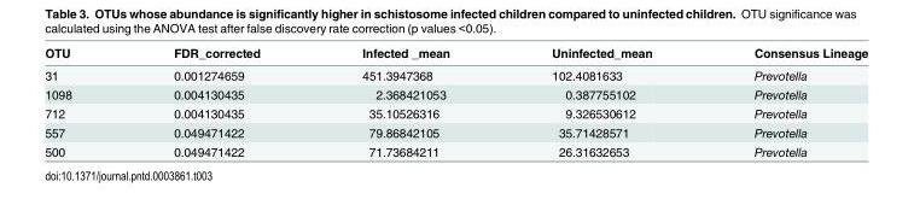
<table><thead><tr><td>OTU</td><td>FDR_corrected</td><td>Infected _mean</td><td>Uninfected_mean</td><td>Consensus Lineage</td></tr></thead><tbody><tr><td>31</td><td>0.001274659</td><td>451.3947368</td><td>102.4081633</td><td>Prevotella</td></tr><tr><td>1098</td><td>0.004130435</td><td>2.368421053</td><td>0.387755102</td><td>Prevotella</td></tr><tr><td>712</td><td>0.004130435</td><td>35.10526316</td><td>9.326530612</td><td>Prevotella</td></tr><tr><td>557</td><td>0.049471422</td><td>79.86842105</td><td>35.71428571</td><td>Prevotella</td></tr><tr><td>500</td><td>0.049471422</td><td>71.73684211</td><td>26.31632653</td><td>Prevotella</td></tr></tbody></table>